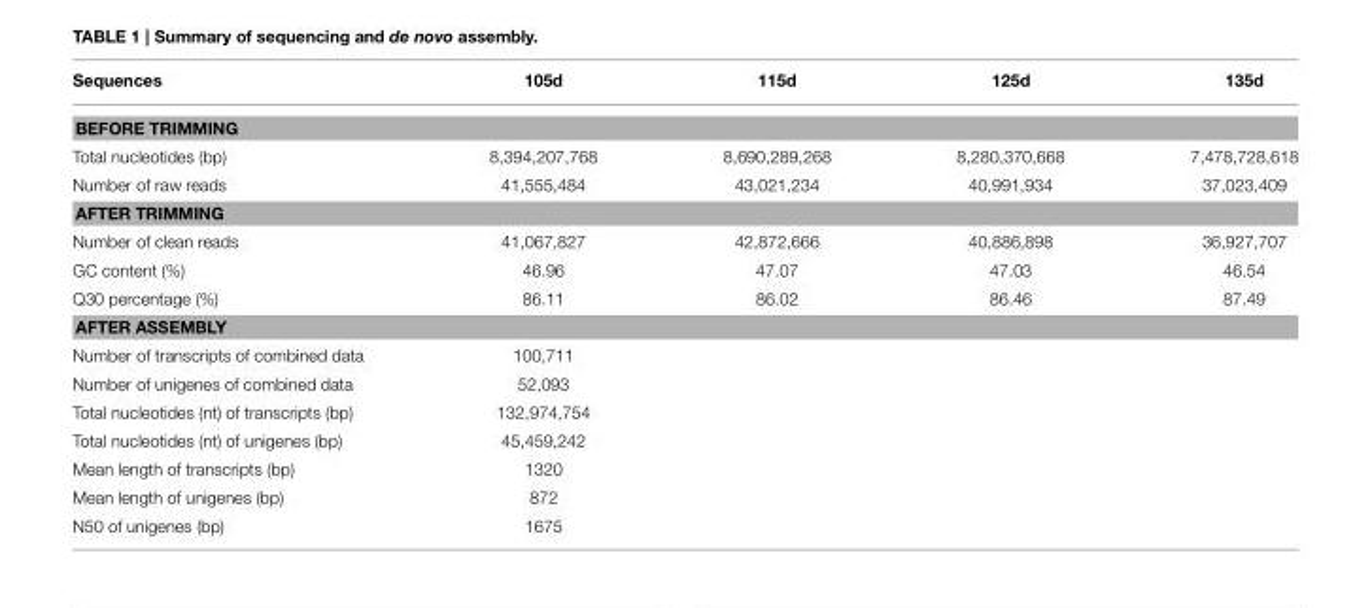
<table><thead><tr><td>Sequences</td><td>105d</td><td>115d</td><td>125d</td><td>135d</td></tr></thead><tbody><tr><td colspan="5">BEFORE TRIMMING</td></tr><tr><td>Total nucleotides (bp)</td><td>8,394,207,768</td><td>8,690,289,268</td><td>8,280,370,668</td><td>7,478,728,618</td></tr><tr><td>Number of raw reads</td><td>41,555,484</td><td>43,021,234</td><td>40,991,934</td><td>37,023,409</td></tr><tr><td colspan="5">AFTER TRIMMING</td></tr><tr><td>Number of clean reads</td><td>41,067,827</td><td>42,872,666</td><td>40,886,898</td><td>36,927,707</td></tr><tr><td>GC content (%)</td><td>46.96</td><td>47.07</td><td>47.03</td><td>46.54</td></tr><tr><td>Q30 percentage (%)</td><td>86.11</td><td>86.02</td><td>86.46</td><td>87.49</td></tr><tr><td colspan="5">AFTER ASSEMBLY</td></tr><tr><td>Number of transcripts of combined data</td><td>100,711</td><td></td><td></td><td></td></tr><tr><td>Number of unigenes of combined data</td><td>52,093</td><td></td><td></td><td></td></tr><tr><td>Total nucleotides (nt) of transcripts (bp)</td><td>132,974,754</td><td></td><td></td><td></td></tr><tr><td>Total nucleotides (nt) of unigenes (bp)</td><td>45,459,242</td><td></td><td></td><td></td></tr><tr><td>Mean length of transcripts (bp)</td><td>1320</td><td></td><td></td><td></td></tr><tr><td>Mean length of unigenes (bp)</td><td>872</td><td></td><td></td><td></td></tr><tr><td>N50 of unigenes (bp)</td><td>1675</td><td></td><td></td><td></td></tr></tbody></table>